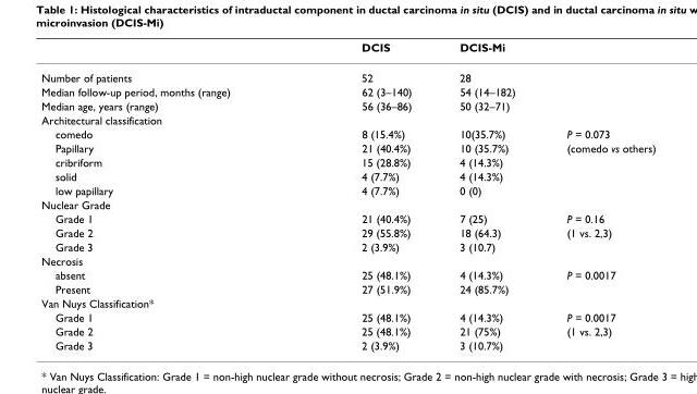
<table><thead><tr><td></td><td>DCIS</td><td>DCIS-Mi</td><td></td></tr></thead><tbody><tr><td>Number of patients</td><td>52</td><td>28</td><td></td></tr><tr><td>Median follow-up period, months (range)</td><td>62 (3–140)</td><td>54 (14–182)</td><td></td></tr><tr><td>Median age, years (range)</td><td>56 (36–86)</td><td>50 (32–71)</td><td></td></tr><tr><td colspan="4">Architectural classification</td></tr><tr><td>comedo</td><td>8 (15.4%)</td><td>10(35.7%)</td><td>P = 0.073</td></tr><tr><td>Papillary</td><td>21 (40.4%)</td><td>10 (35.7%)</td><td>(comedo vs others)</td></tr><tr><td>cribriform</td><td>15 (28.8%)</td><td>4 (14.3%)</td><td></td></tr><tr><td>solid</td><td>4 (7.7%)</td><td>4 (14.3%)</td><td></td></tr><tr><td>low papillary</td><td>4 (7.7%)</td><td>0 (0)</td><td></td></tr><tr><td colspan="4">Nuclear Grade</td></tr><tr><td>Grade 1</td><td>21 (40.4%)</td><td>7 (25)</td><td>P = 0.16</td></tr><tr><td>Grade 2</td><td>29 (55.8%)</td><td>18 (64.3)</td><td>(1 vs. 2,3)</td></tr><tr><td>Grade 3</td><td>2 (3.9%)</td><td>3 (10.7)</td><td></td></tr><tr><td colspan="4">Necrosis</td></tr><tr><td>absent</td><td>25 (48.1%)</td><td>4 (14.3%)</td><td>P = 0.0017</td></tr><tr><td>Present</td><td>27 (51.9%)</td><td>24 (85.7%)</td><td></td></tr><tr><td colspan="4">Van Nuys Classification*</td></tr><tr><td>Grade 1</td><td>25 (48.1%)</td><td>4 (14.3%)</td><td>P = 0.0017</td></tr><tr><td>Grade 2</td><td>25 (48.1%)</td><td>21 (75%)</td><td>(1 vs. 2,3)</td></tr><tr><td>Grade 3</td><td>2 (3.9%)</td><td>3 (10.7%)</td><td></td></tr></tbody></table>